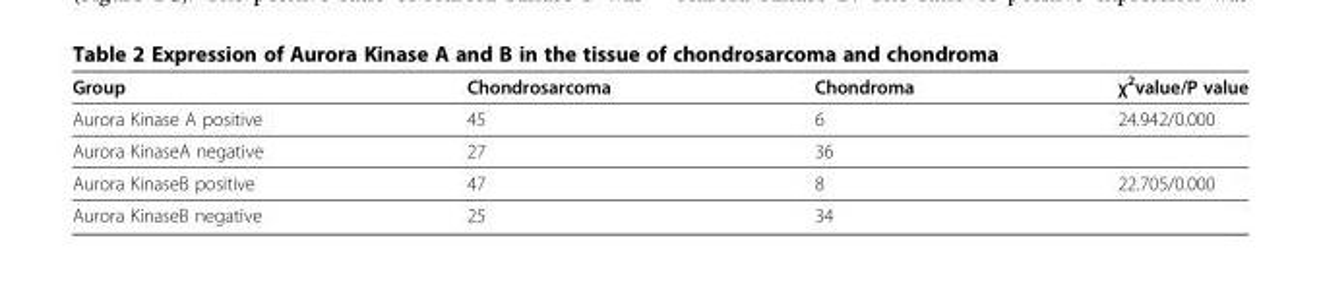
<table><thead><tr><td>Group</td><td>Chondrosarcoma</td><td>Chondroma</td><td>χ<sup>2</sup>value/P value</td></tr></thead><tbody><tr><td>Aurora Kinase A positive</td><td>45</td><td>6</td><td>24.942/0.000</td></tr><tr><td>Aurora KinaseA negative</td><td>27</td><td>36</td><td></td></tr><tr><td>Aurora KinaseB positive</td><td>47</td><td>8</td><td>22.705/0.000</td></tr><tr><td>Aurora KinaseB negative</td><td>25</td><td>34</td><td></td></tr></tbody></table>